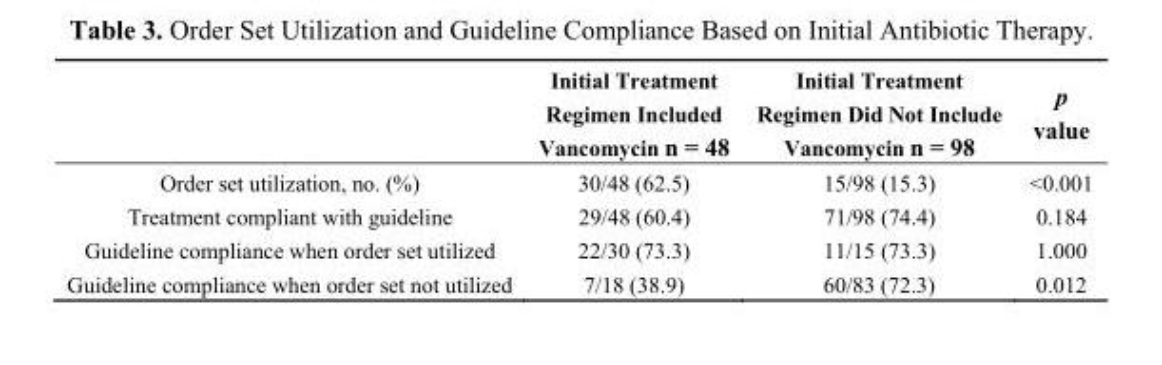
<table><thead><tr><td></td><td>Initial Treatment Regimen Included Vancomycin n = 48</td><td>Initial Treatment Regimen Did Not Include Vancomycin n = 98</td><td>p value</td></tr></thead><tbody><tr><td>Order set utilization, no. (%)</td><td>30/48 (62.5)</td><td>15/98 (15.3)</td><td>&lt;0.001</td></tr><tr><td>Treatment compliant with guideline</td><td>29/48 (60.4)</td><td>71/98 (74.4)</td><td>0.184</td></tr><tr><td>Guideline compliance when order set utilized</td><td>22/30 (73.3)</td><td>11/15 (73.3)</td><td>1.000</td></tr><tr><td>Guideline compliance when order set not utilized</td><td>7/18 (38.9)</td><td>60/83 (72.3)</td><td>0.012</td></tr></tbody></table>